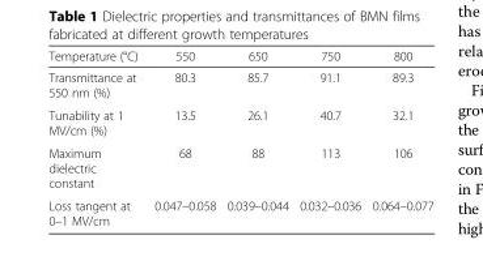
<table><thead><tr><td>Temperature (°C)</td><td>550</td><td>650</td><td>750</td><td>800</td></tr></thead><tbody><tr><td>Transmittance at 550 nm (%)</td><td>80.3</td><td>85.7</td><td>91.1</td><td>89.3</td></tr><tr><td>Tunability at 1 MV/cm (%)</td><td>13.5</td><td>26.1</td><td>40.7</td><td>32.1</td></tr><tr><td>Maximum dielectric constant</td><td>68</td><td>88</td><td>113</td><td>106</td></tr><tr><td>Loss tangent at 0–1 MV/cm</td><td>0.047–0.058</td><td>0.039–0.044</td><td>0.032–0.036</td><td>0.064–0.077</td></tr></tbody></table>